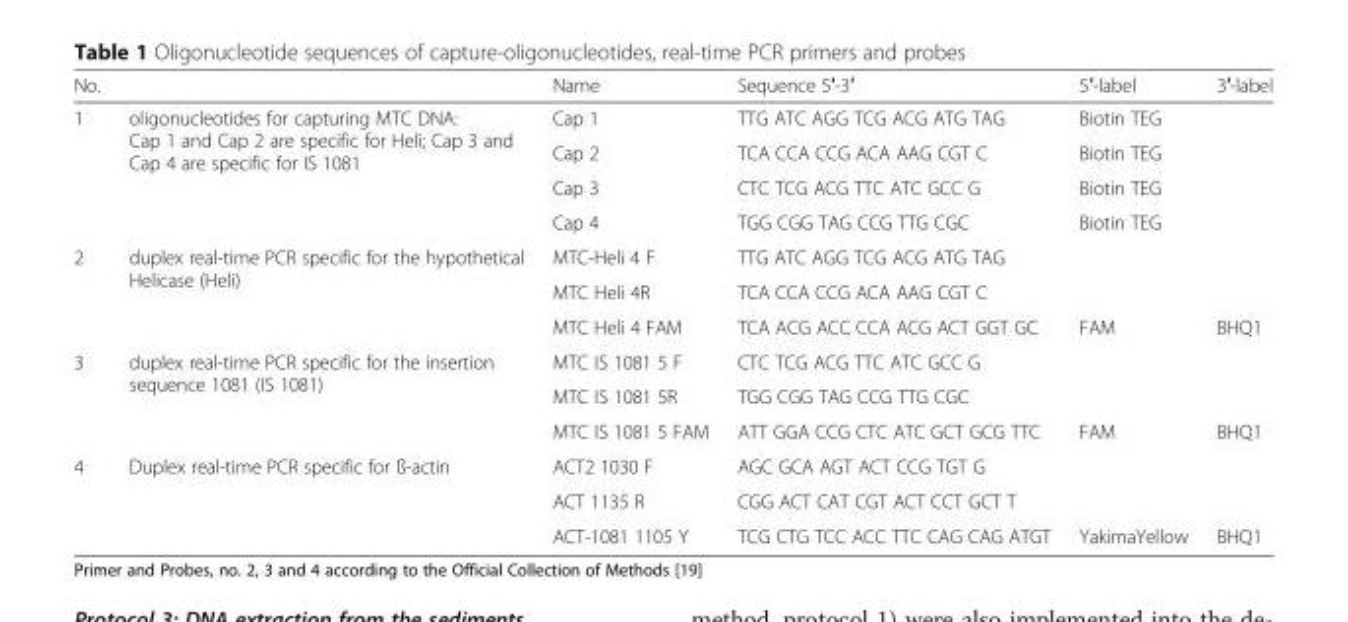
<table><thead><tr><td>No.</td><td></td><td>Name</td><td>Sequence 5′-3′</td><td>5′-label</td><td>3′-label</td></tr></thead><tbody><tr><td rowspan="4">1</td><td rowspan="4">oligonucleotides for capturing MTC DNA: Cap 1 and Cap 2 are specific for Heli; Cap 3 and Cap 4 are specific for IS 1081</td><td>Cap 1</td><td>TTG ATC AGG TCG ACG ATG TAG</td><td>Biotin TEG</td><td></td></tr><tr><td>Cap 2</td><td>TCA CCA CCG ACA AAG CGT C</td><td>Biotin TEG</td><td></td></tr><tr><td>Cap 3</td><td>CTC TCG ACG TTC ATC GCC G</td><td>Biotin TEG</td><td></td></tr><tr><td>Cap 4</td><td>TGG CGG TAG CCG TTG CGC</td><td>Biotin TEG</td><td></td></tr><tr><td rowspan="3">2</td><td rowspan="3">duplex real-time PCR specific for the hypothetical Helicase (Heli)</td><td>MTC-Heli 4 F</td><td>TTG ATC AGG TCG ACG ATG TAG</td><td></td><td></td></tr><tr><td>MTC Heli 4R</td><td>TCA CCA CCG ACA AAG CGT C</td><td></td><td></td></tr><tr><td>MTC Heli 4 FAM</td><td>TCA ACG ACC CCA ACG ACT GGT GC</td><td>FAM</td><td>BHQ1</td></tr><tr><td rowspan="3">3</td><td rowspan="3">duplex real-time PCR specific for the insertion sequence 1081 (IS 1081)</td><td>MTC IS 1081 5 F</td><td>CTC TCG ACG TTC ATC GCC G</td><td></td><td></td></tr><tr><td>MTC IS 1081 5R</td><td>TGG CGG TAG CCG TTG CGC</td><td></td><td></td></tr><tr><td>MTC IS 1081 5 FAM</td><td>ATT GGA CCG CTC ATC GCT GCG TTC</td><td>FAM</td><td>BHQ1</td></tr><tr><td rowspan="3">4</td><td rowspan="3">Duplex real-time PCR specific for ß-actin</td><td>ACT2 1030 F</td><td>AGC GCA AGT ACT CCG TGT G</td><td></td><td></td></tr><tr><td>ACT 1135 R</td><td>CGG ACT CAT CGT ACT CCT GCT T</td><td></td><td></td></tr><tr><td>ACT-1081 1105 Y</td><td>TCG CTG TCC ACC TTC CAG CAG ATGT</td><td>YakimaYellow</td><td>BHQ1</td></tr></tbody></table>